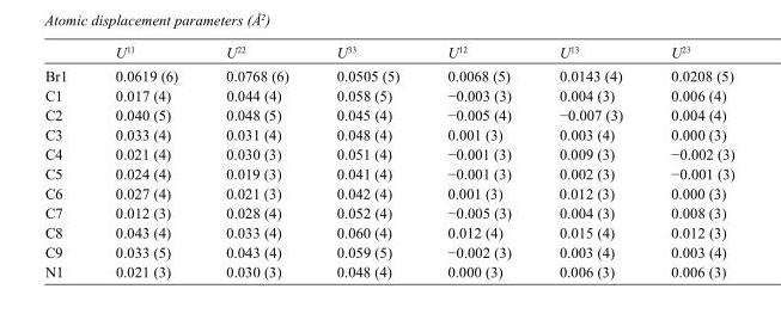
<table><thead><tr><td></td><td>U<sup>11</sup></td><td>U<sup>22</sup></td><td>U<sup>33</sup></td><td>U<sup>12</sup></td><td>U<sup>13</sup></td><td>U<sup>23</sup></td></tr></thead><tbody><tr><td>Br1</td><td>0.0619 (6)</td><td>0.0768 (6)</td><td>0.0505 (5)</td><td>0.0068 (5)</td><td>0.0143 (4)</td><td>0.0208 (5)</td></tr><tr><td>C1</td><td>0.017 (4)</td><td>0.044 (4)</td><td>0.058 (5)</td><td>−0.003 (3)</td><td>0.004 (3)</td><td>0.006 (4)</td></tr><tr><td>C2</td><td>0.040 (5)</td><td>0.048 (5)</td><td>0.045 (4)</td><td>−0.005 (4)</td><td>−0.007 (3)</td><td>0.004 (4)</td></tr><tr><td>C3</td><td>0.033 (4)</td><td>0.031 (4)</td><td>0.048 (4)</td><td>0.001 (3)</td><td>0.003 (4)</td><td>0.000 (3)</td></tr><tr><td>C4</td><td>0.021 (4)</td><td>0.030 (3)</td><td>0.051 (4)</td><td>−0.001 (3)</td><td>0.009 (3)</td><td>−0.002 (3)</td></tr><tr><td>C5</td><td>0.024 (4)</td><td>0.019 (3)</td><td>0.041 (4)</td><td>−0.001 (3)</td><td>0.002 (3)</td><td>−0.001 (3)</td></tr><tr><td>C6</td><td>0.027 (4)</td><td>0.021 (3)</td><td>0.042 (4)</td><td>0.001 (3)</td><td>0.012 (3)</td><td>0.000 (3)</td></tr><tr><td>C7</td><td>0.012 (3)</td><td>0.028 (4)</td><td>0.052 (4)</td><td>−0.005 (3)</td><td>0.004 (3)</td><td>0.008 (3)</td></tr><tr><td>C8</td><td>0.043 (4)</td><td>0.033 (4)</td><td>0.060 (4)</td><td>0.012 (4)</td><td>0.015 (4)</td><td>0.012 (3)</td></tr><tr><td>C9</td><td>0.033 (5)</td><td>0.043 (4)</td><td>0.059 (5)</td><td>−0.002 (3)</td><td>0.003 (4)</td><td>0.003 (4)</td></tr><tr><td>N1</td><td>0.021 (3)</td><td>0.030 (3)</td><td>0.048 (4)</td><td>0.000 (3)</td><td>0.006 (3)</td><td>0.006 (3)</td></tr></tbody></table>